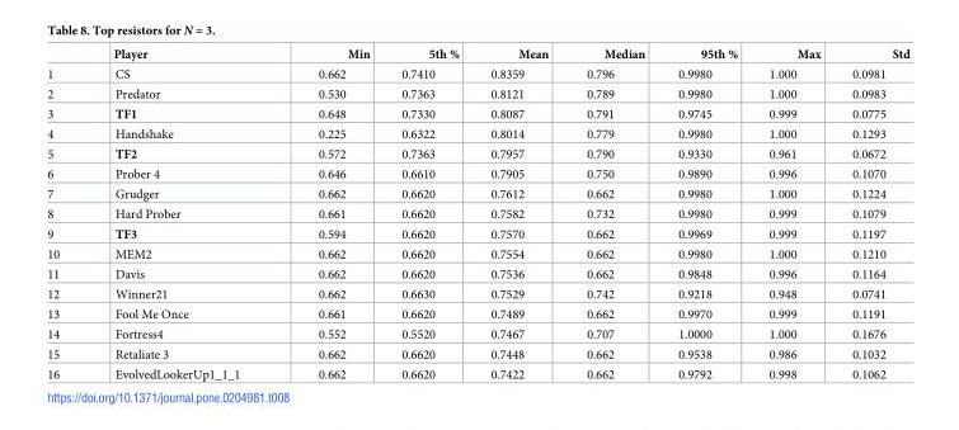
<table><thead><tr><td></td><td>Player</td><td>Min</td><td>5th %</td><td>Mean</td><td>Median</td><td>95th %</td><td>Max</td><td>Std</td></tr></thead><tbody><tr><td>1</td><td>CS</td><td>0.662</td><td>0.7410</td><td>0.8359</td><td>0.796</td><td>0.9980</td><td>1.000</td><td>0.0981</td></tr><tr><td>2</td><td>Predator</td><td>0.530</td><td>0.7363</td><td>0.8121</td><td>0.789</td><td>0.9980</td><td>1.000</td><td>0.0983</td></tr><tr><td>3</td><td>TF1</td><td>0.648</td><td>0.7330</td><td>0.8087</td><td>0.791</td><td>0.9745</td><td>0.999</td><td>0.0775</td></tr><tr><td>4</td><td>Handshake</td><td>0.225</td><td>0.6322</td><td>0.8014</td><td>0.779</td><td>0.9980</td><td>1.000</td><td>0.1293</td></tr><tr><td>5</td><td>TF2</td><td>0.572</td><td>0.7363</td><td>0.7957</td><td>0.790</td><td>0.9330</td><td>0.961</td><td>0.0672</td></tr><tr><td>6</td><td>Prober 4</td><td>0.646</td><td>0.6610</td><td>0.7905</td><td>0.750</td><td>0.9890</td><td>0.996</td><td>0.1070</td></tr><tr><td>7</td><td>Grudger</td><td>0.662</td><td>0.6620</td><td>0.7612</td><td>0.662</td><td>0.9980</td><td>1.000</td><td>0.1224</td></tr><tr><td>8</td><td>Hard Prober</td><td>0.661</td><td>0.6620</td><td>0.7582</td><td>0.732</td><td>0.9980</td><td>0.999</td><td>0.1079</td></tr><tr><td>9</td><td>TF3</td><td>0.594</td><td>0.6620</td><td>0.7570</td><td>0.662</td><td>0.9969</td><td>0.999</td><td>0.1197</td></tr><tr><td>10</td><td>MEM2</td><td>0.662</td><td>0.6620</td><td>0.7554</td><td>0.662</td><td>0.9980</td><td>1.000</td><td>0.1210</td></tr><tr><td>11</td><td>Davis</td><td>0.662</td><td>0.6620</td><td>0.7536</td><td>0.662</td><td>0.9848</td><td>0.996</td><td>0.1164</td></tr><tr><td>12</td><td>Winner21</td><td>0.662</td><td>0.6630</td><td>0.7529</td><td>0.742</td><td>0.9218</td><td>0.948</td><td>0.0741</td></tr><tr><td>13</td><td>Fool Me Once</td><td>0.661</td><td>0.6620</td><td>0.7489</td><td>0.662</td><td>0.9970</td><td>0.999</td><td>0.1191</td></tr><tr><td>14</td><td>Fortress4</td><td>0.552</td><td>0.5520</td><td>0.7467</td><td>0.707</td><td>1.0000</td><td>1.000</td><td>0.1676</td></tr><tr><td>15</td><td>Retaliate 3</td><td>0.662</td><td>0.6620</td><td>0.7448</td><td>0.662</td><td>0.9538</td><td>0.986</td><td>0.1032</td></tr><tr><td>16</td><td>EvolvedLookerUp1_1_1</td><td>0.662</td><td>0.6620</td><td>0.7422</td><td>0.662</td><td>0.9792</td><td>0.998</td><td>0.1062</td></tr></tbody></table>